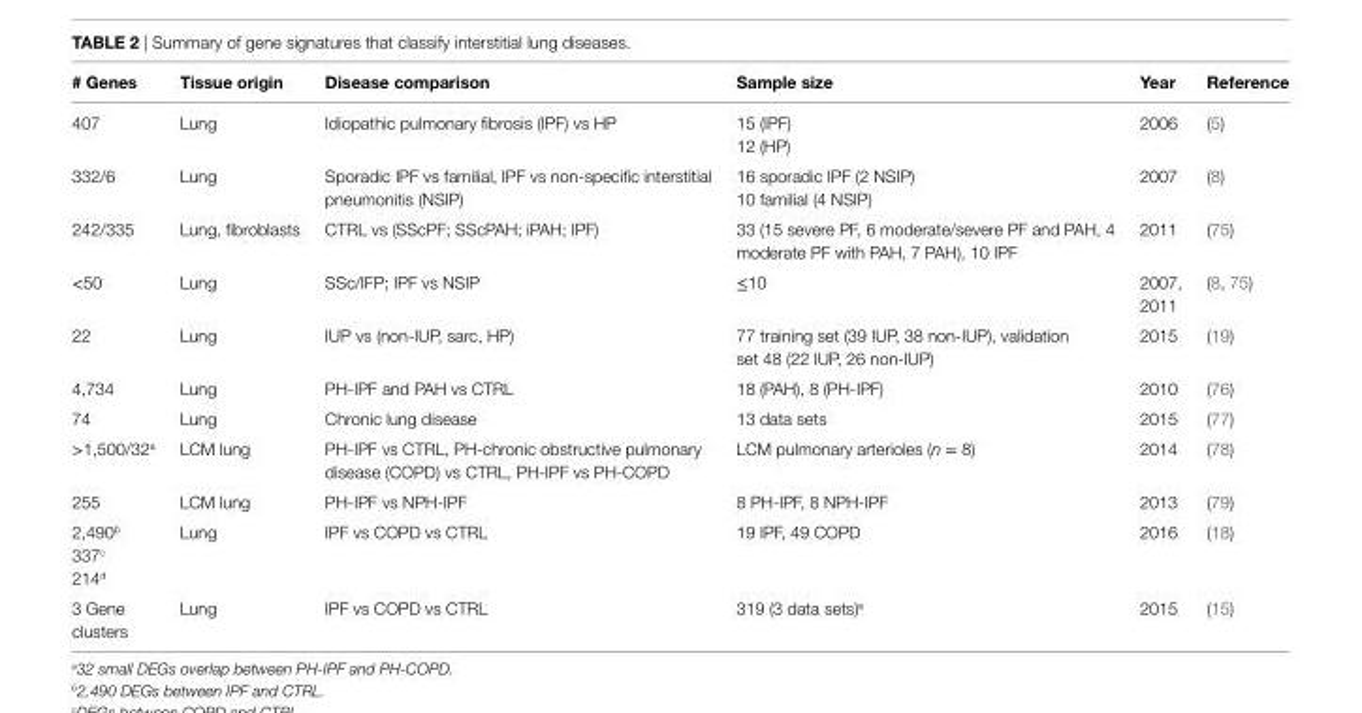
<table><thead><tr><td># genes</td><td>Tissue origin</td><td>Disease comparison</td><td>Sample size</td><td>Year</td><td>Reference</td></tr></thead><tbody><tr><td>407</td><td>Lung</td><td>Idiopathic pulmonary fibrosis (IPF) vs HP</td><td>15 (IPF) 12 (HP)</td><td>2006</td><td>(5)</td></tr><tr><td>332/6</td><td>Lung</td><td>Sporadic IPF vs familial, IPF vs non-specific interstitial pneumonitis (NSIP)</td><td>16 sporadic IPF (2 NSIP) 10 familial (4 NSIP)</td><td>2007</td><td>(8)</td></tr><tr><td>242/335</td><td>Lung, fibroblasts</td><td>CTRL vs (SScPF; SScPAH; iPAH; IPF)</td><td>33 (15 severe PF, 6 moderate/severe PF and PAH, 4 moderate PF with PAH, 7 PAH), 10 IPF</td><td>2011</td><td>(75)</td></tr><tr><td>&lt;50</td><td>Lung</td><td>SSc/IFP; IPF vs NSIP</td><td>≤10</td><td>2007, 2011</td><td>(8, 75)</td></tr><tr><td>22</td><td>Lung</td><td>IUP vs (non-IUP, sarc, HP)</td><td>77 training set (39 IUP, 38 non-IUP), validation set 48 (22 IUP, 26 non-IUP)</td><td>2015</td><td>(19)</td></tr><tr><td>4,734</td><td>Lung</td><td>PH-IPF and PAH vs CTRL</td><td>18 (PAH), 8 (PH-IPF)</td><td>2010</td><td>(76)</td></tr><tr><td>74</td><td>Lung</td><td>Chronic lung disease</td><td>13 data sets</td><td>2015</td><td>(77)</td></tr><tr><td>&gt;1,500/32<sup>a</sup></td><td>LCM lung</td><td>PH-IPF vs CTRL, PH-chronic obstructive pulmonary disease (COPD) vs CTRL, PH-IPF vs PH-COPD</td><td>LCM pulmonary arterioles (n = 8)</td><td>2014</td><td>(78)</td></tr><tr><td>255</td><td>LCM lung</td><td>PH-IPF vs NPH-IPF</td><td>8 PH-IPF, 8 NPH-IPF</td><td>2013</td><td>(79)</td></tr><tr><td>2,490<sup>b</sup> 337<sup>c</sup> 214<sup>d</sup></td><td>Lung</td><td>IPF vs COPD vs CTRL</td><td>19 IPF, 49 COPD</td><td>2016</td><td>(18)</td></tr><tr><td>3 Gene clusters</td><td>Lung</td><td>IPF vs COPD vs CTRL</td><td>319 (3 data sets)<sup>e</sup></td><td>2015</td><td>(15)</td></tr></tbody></table>